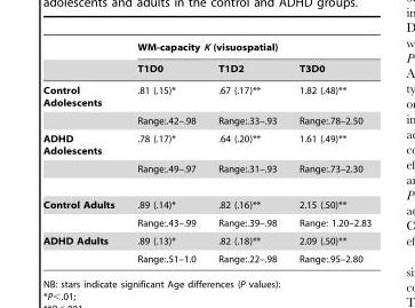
<table><thead><tr><td rowspan="2"></td><td colspan="3">WM-capacity K (visuospatial)</td></tr><tr><td>T1D0</td><td>T1D2</td><td>T3D0</td></tr></thead><tbody><tr><td rowspan="2">Control Adolescents</td><td>.81 (.15)*</td><td>.67 (.17)**</td><td>1.82 (.48)**</td></tr><tr><td>Range:.42–.98</td><td>Range:.33–.93</td><td>Range:.78–2.50</td></tr><tr><td rowspan="2">ADHD Adolescents</td><td>.78 (.17)*</td><td>.64 (.20)**</td><td>1.61 (.49)**</td></tr><tr><td>Range:.49–.97</td><td>Range:.31–.93</td><td>Range:.73–2.30</td></tr><tr><td rowspan="2">Control Adults</td><td>.89 (.14)*</td><td>.82 (.16)**</td><td>2.15 (.50)**</td></tr><tr><td>Range:.43–.99</td><td>Range:.39–.98</td><td>Range: 1.20–2.83</td></tr><tr><td rowspan="2">ADHD Adults</td><td>.89 (.13)*</td><td>.82 (.18)**</td><td>2.09 (.50)**</td></tr><tr><td>Range:.51–1.0</td><td>Range:.22–.98</td><td>Range:.95–2.80</td></tr></tbody></table>